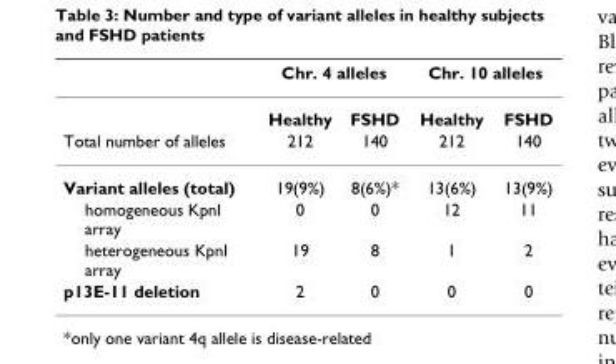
<table><thead><tr><td rowspan="2"></td><td colspan="2">Chr. 4 alleles</td><td colspan="2">Chr. 10 alleles</td></tr><tr><td>Healthy</td><td>FSHD</td><td>Healthy</td><td>FSHD</td></tr></thead><tbody><tr><td>Total number of alleles</td><td>212</td><td>140</td><td>212</td><td>140</td></tr><tr><td>Variant alleles (total)</td><td>19(9%)</td><td>8(6%)*</td><td>13(6%)</td><td>13(9%)</td></tr><tr><td>homogeneous KpnI array</td><td>0</td><td>0</td><td>12</td><td>11</td></tr><tr><td>heterogeneous KpnI array</td><td>19</td><td>8</td><td>1</td><td>2</td></tr><tr><td>p13E-11 deletion</td><td>2</td><td>0</td><td>0</td><td>0</td></tr></tbody></table>